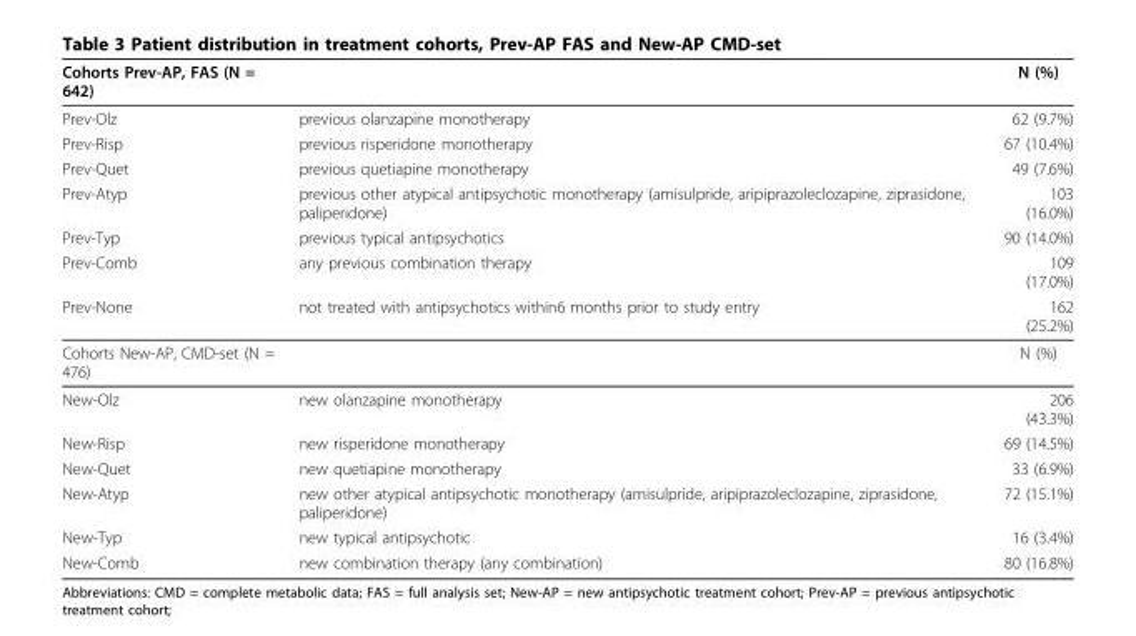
<table><thead><tr><td>Cohorts Prev-AP, FAS (N = 642)</td><td></td><td>N (%)</td></tr></thead><tbody><tr><td>Prev-Olz</td><td>previous olanzapine monotherapy</td><td>62 (9.7%)</td></tr><tr><td>Prev-Risp</td><td>previous risperidone monotherapy</td><td>67 (10.4%)</td></tr><tr><td>Prev-Quet</td><td>previous quetiapine monotherapy</td><td>49 (7.6%)</td></tr><tr><td>Prev-Atyp</td><td>previous other atypical antipsychotic monotherapy (amisulpride, aripiprazoleclozapine, ziprasidone, paliperidone)</td><td>103 (16.0%)</td></tr><tr><td>Prev-Typ</td><td>previous typical antipsychotics</td><td>90 (14.0%)</td></tr><tr><td>Prev-Comb</td><td>any previous combination therapy</td><td>109 (17.0%)</td></tr><tr><td>Prev-None</td><td>not treated with antipsychotics within6 months prior to study entry</td><td>162 (25.2%)</td></tr><tr><td>Cohorts New-AP, CMD-set (N = 476)</td><td></td><td>N (%)</td></tr><tr><td>New-Olz</td><td>new olanzapine monotherapy</td><td>206 (43.3%)</td></tr><tr><td>New-Risp</td><td>new risperidone monotherapy</td><td>69 (14.5%)</td></tr><tr><td>New-Quet</td><td>new quetiapine monotherapy</td><td>33 (6.9%)</td></tr><tr><td>New-Atyp</td><td>new other atypical antipsychotic monotherapy (amisulpride, aripiprazoleclozapine, ziprasidone, paliperidone)</td><td>72 (15.1%)</td></tr><tr><td>New-Typ</td><td>new typical antipsychotic</td><td>16 (3.4%)</td></tr><tr><td>New-Comb</td><td>new combination therapy (any combination)</td><td>80 (16.8%)</td></tr></tbody></table>